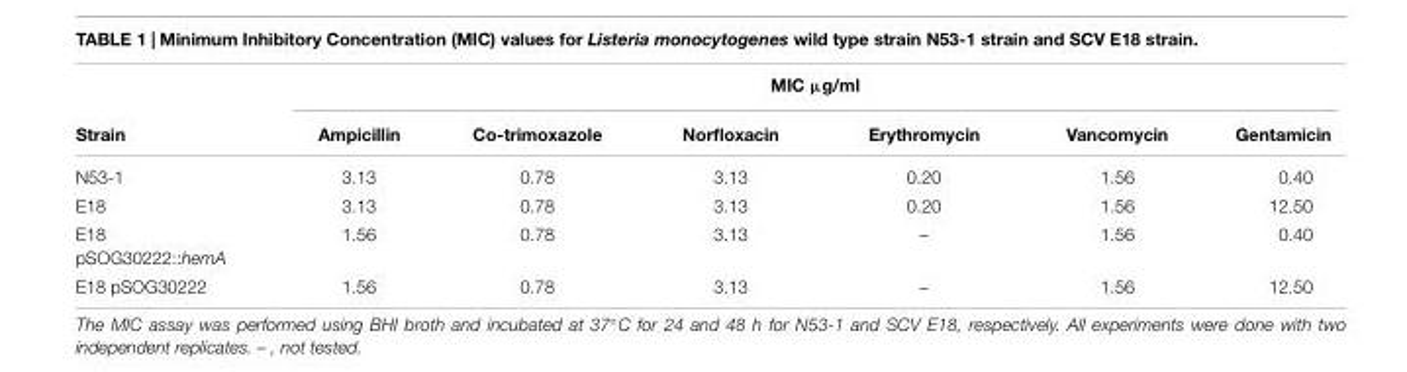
<table><thead><tr><td rowspan="2">Strain</td><td colspan="6">MIC µg/ml</td></tr><tr><td>Ampicillin</td><td>Co-trimoxazole</td><td>Norfloxacin</td><td>Erythromycin</td><td>Vancomycin</td><td>Gentamicin</td></tr></thead><tbody><tr><td>N53-1</td><td>3.13</td><td>0.78</td><td>3.13</td><td>0.20</td><td>1.56</td><td>0.40</td></tr><tr><td>E18</td><td>3.13</td><td>0.78</td><td>3.13</td><td>0.20</td><td>1.56</td><td>12.50</td></tr><tr><td>E18 pSOG30222::hemA</td><td>1.56</td><td>0.78</td><td>3.13</td><td>–</td><td>1.56</td><td>0.40</td></tr><tr><td>E18 pSOG30222</td><td>1.56</td><td>0.78</td><td>3.13</td><td>–</td><td>1.56</td><td>12.50</td></tr></tbody></table>